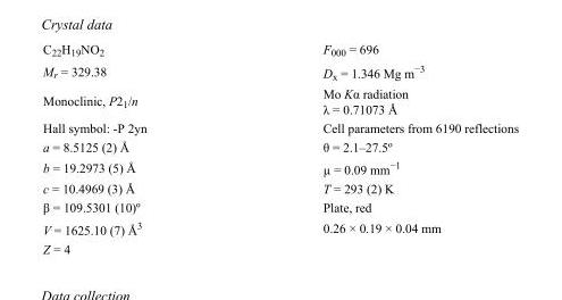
<table><tbody><tr><td>C<sub>22</sub>H<sub>19</sub>NO<sub>2</sub></td><td>F<sub>000</sub> = 696</td></tr><tr><td>M<sub>r</sub> = 329.38</td><td>D<sub>x</sub> = 1.346 Mg m<sup>−3</sup></td></tr><tr><td>Monoclinic, P2<sub>1</sub>/n</td><td>Mo Kα radiation λ = 0.71073 Å</td></tr><tr><td>Hall symbol: -P 2yn</td><td>Cell parameters from 6190 reflections</td></tr><tr><td>a = 8.5125 (2) Å</td><td>θ = 2.1–27.5º</td></tr><tr><td>b = 19.2973 (5) Å</td><td>µ = 0.09 mm<sup>−1</sup></td></tr><tr><td>c = 10.4969 (3) Å</td><td>T = 293 (2) K</td></tr><tr><td>β = 109.5301 (10)º</td><td>Plate, red</td></tr><tr><td>V = 1625.10 (7) Å<sup>3</sup></td><td>0.26 × 0.19 × 0.04 mm</td></tr><tr><td>Z = 4</td><td></td></tr></tbody></table>